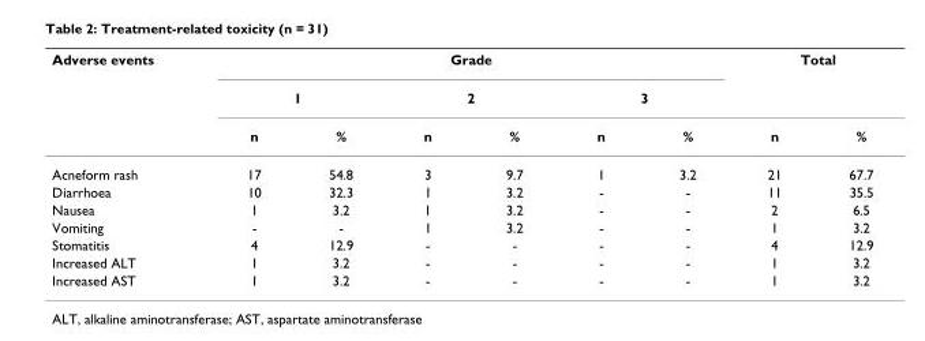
<table><thead><tr><td rowspan="3">Adverse events</td><td colspan="6">Grade</td><td colspan="2">Total</td></tr><tr><td colspan="2">1</td><td colspan="2">2</td><td colspan="2">3</td><td rowspan="2">n</td><td rowspan="2">%</td></tr><tr><td>n</td><td>%</td><td>n</td><td>%</td><td>n</td><td>%</td></tr></thead><tbody><tr><td>Acneform rash</td><td>17</td><td>54.8</td><td>3</td><td>9.7</td><td>1</td><td>3.2</td><td>21</td><td>67.7</td></tr><tr><td>Diarrhoea</td><td>10</td><td>32.3</td><td>1</td><td>3.2</td><td>-</td><td>-</td><td>11</td><td>35.5</td></tr><tr><td>Nausea</td><td>1</td><td>3.2</td><td>1</td><td>3.2</td><td>-</td><td>-</td><td>2</td><td>6.5</td></tr><tr><td>Vomiting</td><td>-</td><td>-</td><td>1</td><td>3.2</td><td>-</td><td>-</td><td>1</td><td>3.2</td></tr><tr><td>Stomatitis</td><td>4</td><td>12.9</td><td>-</td><td>-</td><td>-</td><td>-</td><td>4</td><td>12.9</td></tr><tr><td>Increased ALT</td><td>1</td><td>3.2</td><td>-</td><td>-</td><td>-</td><td>-</td><td>1</td><td>3.2</td></tr><tr><td>Increased AST</td><td>1</td><td>3.2</td><td>-</td><td>-</td><td>-</td><td>-</td><td>1</td><td>3.2</td></tr></tbody></table>